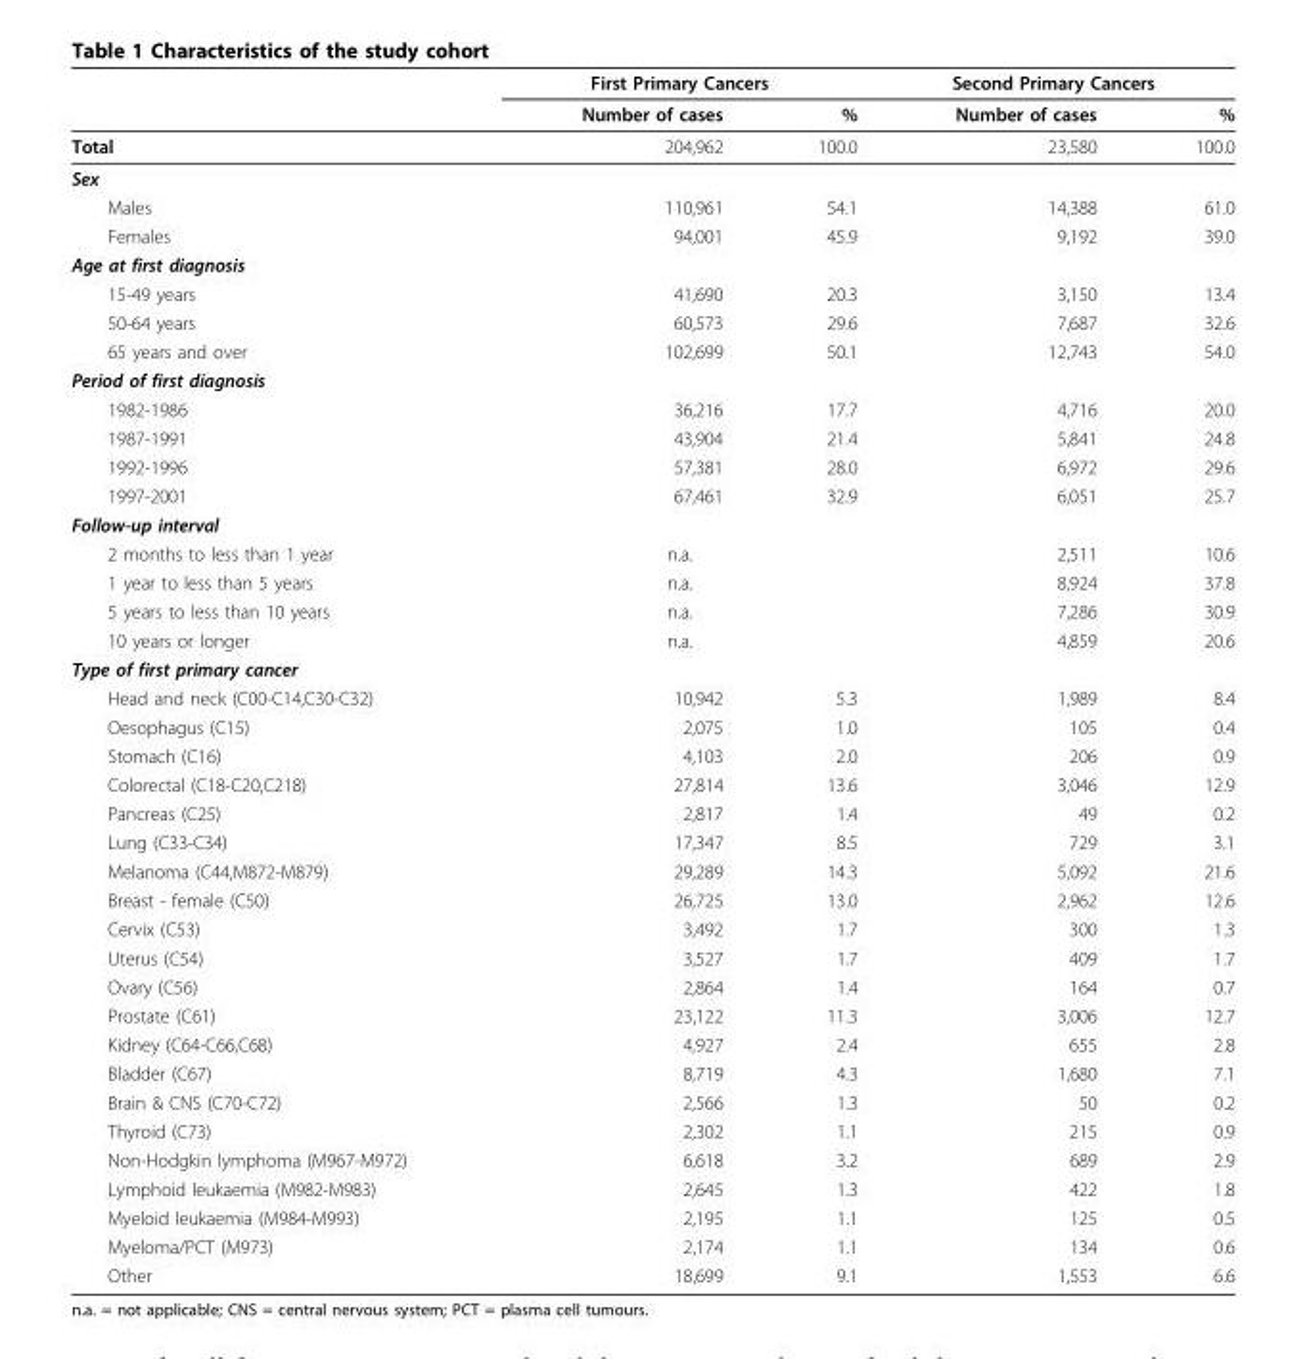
<table><thead><tr><td rowspan="2"></td><td colspan="2">First Primary Cancers</td><td colspan="2">Second Primary Cancers</td></tr><tr><td>Number of cases</td><td>%</td><td>Number of cases</td><td>%</td></tr></thead><tbody><tr><td>Total</td><td>204,962</td><td>100.0</td><td>23,580</td><td>100.0</td></tr><tr><td colspan="5">Sex</td></tr><tr><td>Males</td><td>110,961</td><td>54.1</td><td>14,388</td><td>61.0</td></tr><tr><td>Females</td><td>94,001</td><td>45.9</td><td>9,192</td><td>39.0</td></tr><tr><td colspan="5">Age at first diagnosis</td></tr><tr><td>15-49 years</td><td>41,690</td><td>20.3</td><td>3,150</td><td>13.4</td></tr><tr><td>50-64 years</td><td>60,573</td><td>29.6</td><td>7,687</td><td>32.6</td></tr><tr><td>65 years and over</td><td>102,699</td><td>50.1</td><td>12,743</td><td>54.0</td></tr><tr><td colspan="5">Period of first diagnosis</td></tr><tr><td>1982-1986</td><td>36,216</td><td>17.7</td><td>4,716</td><td>20.0</td></tr><tr><td>1987-1991</td><td>43,904</td><td>21.4</td><td>5,841</td><td>24.8</td></tr><tr><td>1992-1996</td><td>57,381</td><td>28.0</td><td>6,972</td><td>29.6</td></tr><tr><td>1997-2001</td><td>67,461</td><td>32.9</td><td>6,051</td><td>25.7</td></tr><tr><td colspan="5">Follow-up interval</td></tr><tr><td>2 months to less than 1 year</td><td colspan="2">n.a.</td><td>2,511</td><td>10.6</td></tr><tr><td>1 year to less than 5 years</td><td colspan="2">n.a.</td><td>8,924</td><td>37.8</td></tr><tr><td>5 years to less than 10 years</td><td colspan="2">n.a.</td><td>7,286</td><td>30.9</td></tr><tr><td>10 years or longer</td><td colspan="2">n.a.</td><td>4,859</td><td>20.6</td></tr><tr><td colspan="5">Type of first primary cancer</td></tr><tr><td>Head and neck (C00-C14,C30-C32)</td><td>10,942</td><td>5.3</td><td>1,989</td><td>8.4</td></tr><tr><td>Oesophagus (C15)</td><td>2,075</td><td>1.0</td><td>105</td><td>0.4</td></tr><tr><td>Stomach (C16)</td><td>4,103</td><td>2.0</td><td>206</td><td>0.9</td></tr><tr><td>Colorectal (C18-C20,C218)</td><td>27,814</td><td>13.6</td><td>3,046</td><td>12.9</td></tr><tr><td>Pancreas (C25)</td><td>2,817</td><td>1.4</td><td>49</td><td>0.2</td></tr><tr><td>Lung (C33-C34)</td><td>17,347</td><td>8.5</td><td>729</td><td>3.1</td></tr><tr><td>Melanoma (C44,M872-M879)</td><td>29,289</td><td>14.3</td><td>5,092</td><td>21.6</td></tr><tr><td>Breast - female (C50)</td><td>26,725</td><td>13.0</td><td>2,962</td><td>12.6</td></tr><tr><td>Cervix (C53)</td><td>3,492</td><td>1.7</td><td>300</td><td>1.3</td></tr><tr><td>Uterus (C54)</td><td>3,527</td><td>1.7</td><td>409</td><td>1.7</td></tr><tr><td>Ovary (C56)</td><td>2,864</td><td>1.4</td><td>164</td><td>0.7</td></tr><tr><td>Prostate (C61)</td><td>23,122</td><td>11.3</td><td>3,006</td><td>12.7</td></tr><tr><td>Kidney (C64-C66,C68)</td><td>4,927</td><td>2.4</td><td>655</td><td>2.8</td></tr><tr><td>Bladder (C67)</td><td>8,719</td><td>4.3</td><td>1,680</td><td>7.1</td></tr><tr><td>Brain &amp; CNS (C70-C72)</td><td>2,566</td><td>1.3</td><td>50</td><td>0.2</td></tr><tr><td>Thyroid (C73)</td><td>2,302</td><td>1.1</td><td>215</td><td>0.9</td></tr><tr><td>Non-Hodgkin lymphoma (M967-M972)</td><td>6,618</td><td>3.2</td><td>689</td><td>2.9</td></tr><tr><td>Lymphoid leukaemia (M982-M983)</td><td>2,645</td><td>1.3</td><td>422</td><td>1.8</td></tr><tr><td>Myeloid leukaemia (M984-M993)</td><td>2,195</td><td>1.1</td><td>125</td><td>0.5</td></tr><tr><td>Myeloma/PCT (M973)</td><td>2,174</td><td>1.1</td><td>134</td><td>0.6</td></tr><tr><td>Other</td><td>18,699</td><td>9.1</td><td>1,553</td><td>6.6</td></tr></tbody></table>